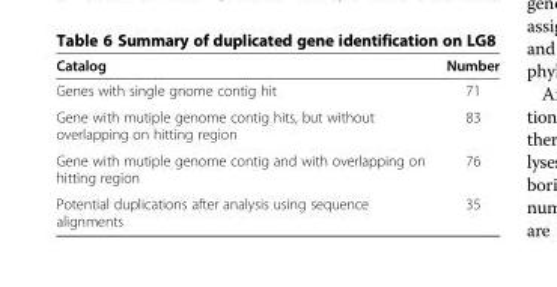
<table><thead><tr><td>Catalog</td><td>Number</td></tr></thead><tbody><tr><td>Genes with single gnome contig hit</td><td>71</td></tr><tr><td>Gene with mutiple genome contig hits, but without overlapping on hitting region</td><td>83</td></tr><tr><td>Gene with mutiple genome contig and with overlapping on hitting region</td><td>76</td></tr><tr><td>Potential duplications after analysis using sequence alignments</td><td>35</td></tr></tbody></table>